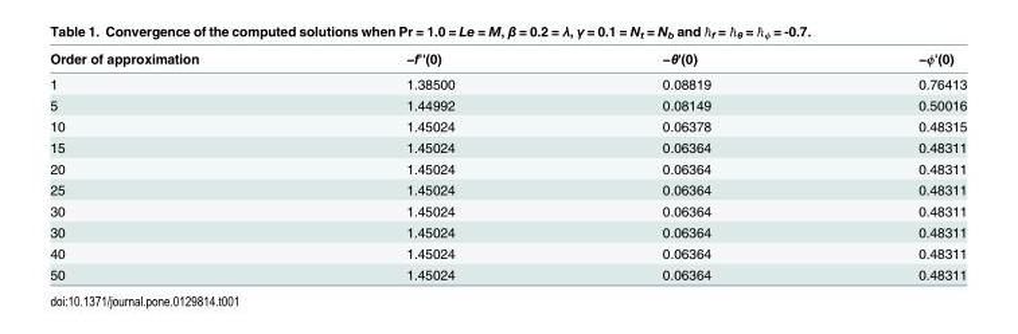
<table><thead><tr><td>Order of approximation</td><td>−f&#x27;&#x27;(0)</td><td>−θ&#x27;(0)</td><td>−ϕ&#x27;(0)</td></tr></thead><tbody><tr><td>1</td><td>1.38500</td><td>0.08819</td><td>0.76413</td></tr><tr><td>5</td><td>1.44992</td><td>0.08149</td><td>0.50016</td></tr><tr><td>10</td><td>1.45024</td><td>0.06378</td><td>0.48315</td></tr><tr><td>15</td><td>1.45024</td><td>0.06364</td><td>0.48311</td></tr><tr><td>20</td><td>1.45024</td><td>0.06364</td><td>0.48311</td></tr><tr><td>25</td><td>1.45024</td><td>0.06364</td><td>0.48311</td></tr><tr><td>30</td><td>1.45024</td><td>0.06364</td><td>0.48311</td></tr><tr><td>30</td><td>1.45024</td><td>0.06364</td><td>0.48311</td></tr><tr><td>40</td><td>1.45024</td><td>0.06364</td><td>0.48311</td></tr><tr><td>50</td><td>1.45024</td><td>0.06364</td><td>0.48311</td></tr></tbody></table>